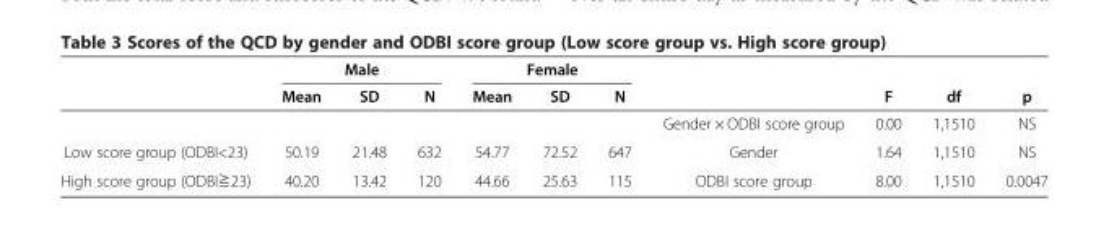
<table><thead><tr><td rowspan="2"></td><td colspan="3">Male</td><td colspan="3">Female</td><td rowspan="2"></td><td rowspan="2">F</td><td rowspan="2">df</td><td rowspan="2">p</td></tr><tr><td>Mean</td><td>SD</td><td>N</td><td>Mean</td><td>SD</td><td>N</td></tr></thead><tbody><tr><td></td><td></td><td></td><td></td><td></td><td></td><td></td><td>Gender × ODBI score group</td><td>0.00</td><td>1,1510</td><td>NS</td></tr><tr><td>Low score group (ODBI&lt;23)</td><td>50.19</td><td>21.48</td><td>632</td><td>54.77</td><td>72.52</td><td>647</td><td>Gender</td><td>1.64</td><td>1,1510</td><td>NS</td></tr><tr><td>High score group (ODBI≧23)</td><td>40.20</td><td>13.42</td><td>120</td><td>44.66</td><td>25.63</td><td>115</td><td>ODBI score group</td><td>8.00</td><td>1,1510</td><td>0.0047</td></tr></tbody></table>